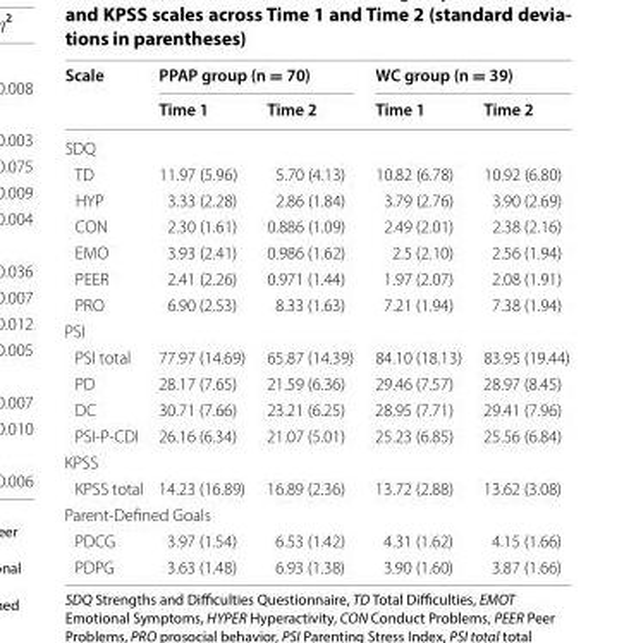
<table><thead><tr><td rowspan="2">Scale</td><td colspan="2">PPAP group (n = 70)</td><td colspan="2">WC group (n = 39)</td></tr><tr><td>Time 1</td><td>Time 2</td><td>Time 1</td><td>Time 2</td></tr></thead><tbody><tr><td colspan="5">SDQ</td></tr><tr><td>TD</td><td>11.97 (5.96)</td><td>5.70 (4.13)</td><td>10.82 (6.78)</td><td>10.92 (6.80)</td></tr><tr><td>HYP</td><td>3.33 (2.28)</td><td>2.86 (1.84)</td><td>3.79 (2.76)</td><td>3.90 (2.69)</td></tr><tr><td>CON</td><td>2.30 (1.61)</td><td>0.886 (1.09)</td><td>2.49 (2.01)</td><td>2.38 (2.16)</td></tr><tr><td>EMO</td><td>3.93 (2.41)</td><td>0.986 (1.62)</td><td>2.5 (2.10)</td><td>2.56 (1.94)</td></tr><tr><td>PEER</td><td>2.41 (2.26)</td><td>0.971 (1.44)</td><td>1.97 (2.07)</td><td>2.08 (1.91)</td></tr><tr><td>PRO</td><td>6.90 (2.53)</td><td>8.33 (1.63)</td><td>7.21 (1.94)</td><td>7.38 (1.94)</td></tr><tr><td colspan="5">PSI</td></tr><tr><td>PSI total</td><td>77.97 (14.69)</td><td>65.87 (14.39)</td><td>84.10 (18.13)</td><td>83.95 (19.44)</td></tr><tr><td>PD</td><td>28.17 (7.65)</td><td>21.59 (6.36)</td><td>29.46 (7.57)</td><td>28.97 (8.45)</td></tr><tr><td>DC</td><td>30.71 (7.66)</td><td>23.21 (6.25)</td><td>28.95 (7.71)</td><td>29.41 (7.96)</td></tr><tr><td>PSI-P-CDI</td><td>26.16 (6.34)</td><td>21.07 (5.01)</td><td>25.23 (6.85)</td><td>25.56 (6.84)</td></tr><tr><td colspan="5">KPSS</td></tr><tr><td>KPSS total</td><td>14.23 (16.89)</td><td>16.89 (2.36)</td><td>13.72 (2.88)</td><td>13.62 (3.08)</td></tr><tr><td colspan="5">Parent-Defined Goals</td></tr><tr><td>PDCG</td><td>3.97 (1.54)</td><td>6.53 (1.42)</td><td>4.31 (1.62)</td><td>4.15 (1.66)</td></tr><tr><td>PDPG</td><td>3.63 (1.48)</td><td>6.93 (1.38)</td><td>3.90 (1.60)</td><td>3.87 (1.66)</td></tr></tbody></table>